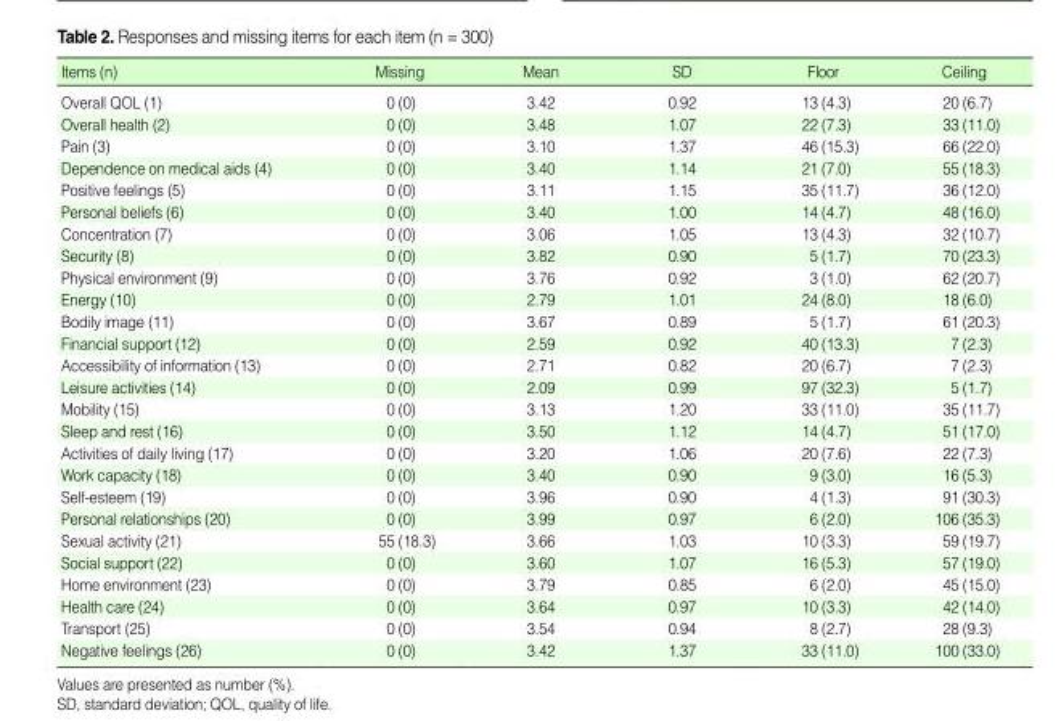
<table><thead><tr><td>Items (n)</td><td>Missing</td><td>Mean</td><td>SD</td><td>Floor</td><td>Ceiling</td></tr></thead><tbody><tr><td>Overall QOL (1)</td><td>0 (0)</td><td>3.42</td><td>0.92</td><td>13 (4.3)</td><td>20 (6.7)</td></tr><tr><td>Overall health (2)</td><td>0 (0)</td><td>3.48</td><td>1.07</td><td>22 (7.3)</td><td>33 (11.0)</td></tr><tr><td>Pain (3)</td><td>0 (0)</td><td>3.10</td><td>1.37</td><td>46 (15.3)</td><td>66 (22.0)</td></tr><tr><td>Dependence on medical aids (4)</td><td>0 (0)</td><td>3.40</td><td>1.14</td><td>21 (7.0)</td><td>55 (18.3)</td></tr><tr><td>Positive feelings (5)</td><td>0 (0)</td><td>3.11</td><td>1.15</td><td>35 (11.7)</td><td>36 (12.0)</td></tr><tr><td>Personal beliefs (6)</td><td>0 (0)</td><td>3.40</td><td>1.00</td><td>14 (4.7)</td><td>48 (16.0)</td></tr><tr><td>Concentration (7)</td><td>0 (0)</td><td>3.06</td><td>1.05</td><td>13 (4.3)</td><td>32 (10.7)</td></tr><tr><td>Security (8)</td><td>0 (0)</td><td>3.82</td><td>0.90</td><td>5 (1.7)</td><td>70 (23.3)</td></tr><tr><td>Physical environment (9)</td><td>0 (0)</td><td>3.76</td><td>0.92</td><td>3 (1.0)</td><td>62 (20.7)</td></tr><tr><td>Energy (10)</td><td>0 (0)</td><td>2.79</td><td>1.01</td><td>24 (8.0)</td><td>18 (6.0)</td></tr><tr><td>Bodily image (11)</td><td>0 (0)</td><td>3.67</td><td>0.89</td><td>5 (1.7)</td><td>61 (20.3)</td></tr><tr><td>Financial support (12)</td><td>0 (0)</td><td>2.59</td><td>0.92</td><td>40 (13.3)</td><td>7 (2.3)</td></tr><tr><td>Accessibility of information (13)</td><td>0 (0)</td><td>2.71</td><td>0.82</td><td>20 (6.7)</td><td>7 (2.3)</td></tr><tr><td>Leisure activities (14)</td><td>0 (0)</td><td>2.09</td><td>0.99</td><td>97 (32.3)</td><td>5 (1.7)</td></tr><tr><td>Mobility (15)</td><td>0 (0)</td><td>3.13</td><td>1.20</td><td>33 (11.0)</td><td>35 (11.7)</td></tr><tr><td>Sleep and rest (16)</td><td>0 (0)</td><td>3.50</td><td>1.12</td><td>14 (4.7)</td><td>51 (17.0)</td></tr><tr><td>Activities of daily living (17)</td><td>0 (0)</td><td>3.20</td><td>1.06</td><td>20 (7.6)</td><td>22 (7.3)</td></tr><tr><td>Work capacity (18)</td><td>0 (0)</td><td>3.40</td><td>0.90</td><td>9 (3.0)</td><td>16 (5.3)</td></tr><tr><td>Self-esteem (19)</td><td>0 (0)</td><td>3.96</td><td>0.90</td><td>4 (1.3)</td><td>91 (30.3)</td></tr><tr><td>Personal relationships (20)</td><td>0 (0)</td><td>3.99</td><td>0.97</td><td>6 (2.0)</td><td>106 (35.3)</td></tr><tr><td>Sexual activity (21)</td><td>55 (18.3)</td><td>3.66</td><td>1.03</td><td>10 (3.3)</td><td>59 (19.7)</td></tr><tr><td>Social support (22)</td><td>0 (0)</td><td>3.60</td><td>1.07</td><td>16 (5.3)</td><td>57 (19.0)</td></tr><tr><td>Home environment (23)</td><td>0 (0)</td><td>3.79</td><td>0.85</td><td>6 (2.0)</td><td>45 (15.0)</td></tr><tr><td>Health care (24)</td><td>0 (0)</td><td>3.64</td><td>0.97</td><td>10 (3.3)</td><td>42 (14.0)</td></tr><tr><td>Transport (25)</td><td>0 (0)</td><td>3.54</td><td>0.94</td><td>8 (2.7)</td><td>28 (9.3)</td></tr><tr><td>Negative feelings (26)</td><td>0 (0)</td><td>3.42</td><td>1.37</td><td>33 (11.0)</td><td>100 (33.0)</td></tr></tbody></table>